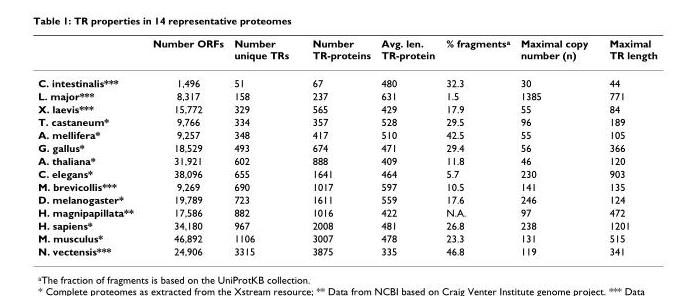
<table><thead><tr><td></td><td>Number ORFs</td><td>Number unique TRs</td><td>Number TR-proteins</td><td>Avg. len. TR-protein</td><td>% fragments<sup>a</sup></td><td>Maximal copy number (n)</td><td>Maximal TR length</td></tr></thead><tbody><tr><td>C. intestinalis***</td><td>1,496</td><td>51</td><td>67</td><td>480</td><td>32.3</td><td>30</td><td>44</td></tr><tr><td>L. major***</td><td>8,317</td><td>158</td><td>237</td><td>631</td><td>1.5</td><td>1385</td><td>771</td></tr><tr><td>X. laevis***</td><td>15,772</td><td>329</td><td>565</td><td>429</td><td>17.9</td><td>55</td><td>84</td></tr><tr><td>T. castaneum*</td><td>9,766</td><td>334</td><td>357</td><td>528</td><td>29.5</td><td>96</td><td>189</td></tr><tr><td>A. mellifera*</td><td>9,257</td><td>348</td><td>417</td><td>510</td><td>42.5</td><td>55</td><td>105</td></tr><tr><td>G. gallus*</td><td>18,529</td><td>493</td><td>674</td><td>471</td><td>29.4</td><td>56</td><td>366</td></tr><tr><td>A. thaliana*</td><td>31,921</td><td>602</td><td>888</td><td>409</td><td>11.8</td><td>46</td><td>120</td></tr><tr><td>C. elegans*</td><td>38,096</td><td>655</td><td>1641</td><td>464</td><td>5.7</td><td>230</td><td>903</td></tr><tr><td>M. brevicollis***</td><td>9,269</td><td>690</td><td>1017</td><td>597</td><td>10.5</td><td>141</td><td>135</td></tr><tr><td>D. melanogaster*</td><td>19,789</td><td>723</td><td>1611</td><td>559</td><td>17.6</td><td>246</td><td>124</td></tr><tr><td>H. magnipapillata**</td><td>17,586</td><td>882</td><td>1016</td><td>422</td><td>N.A.</td><td>97</td><td>472</td></tr><tr><td>H. sapiens*</td><td>34,180</td><td>967</td><td>2008</td><td>481</td><td>26.8</td><td>238</td><td>1201</td></tr><tr><td>M. musculus*</td><td>46,892</td><td>1106</td><td>3007</td><td>478</td><td>23.3</td><td>131</td><td>515</td></tr><tr><td>N. vectensis***</td><td>24,906</td><td>3315</td><td>3875</td><td>335</td><td>46.8</td><td>119</td><td>341</td></tr></tbody></table>